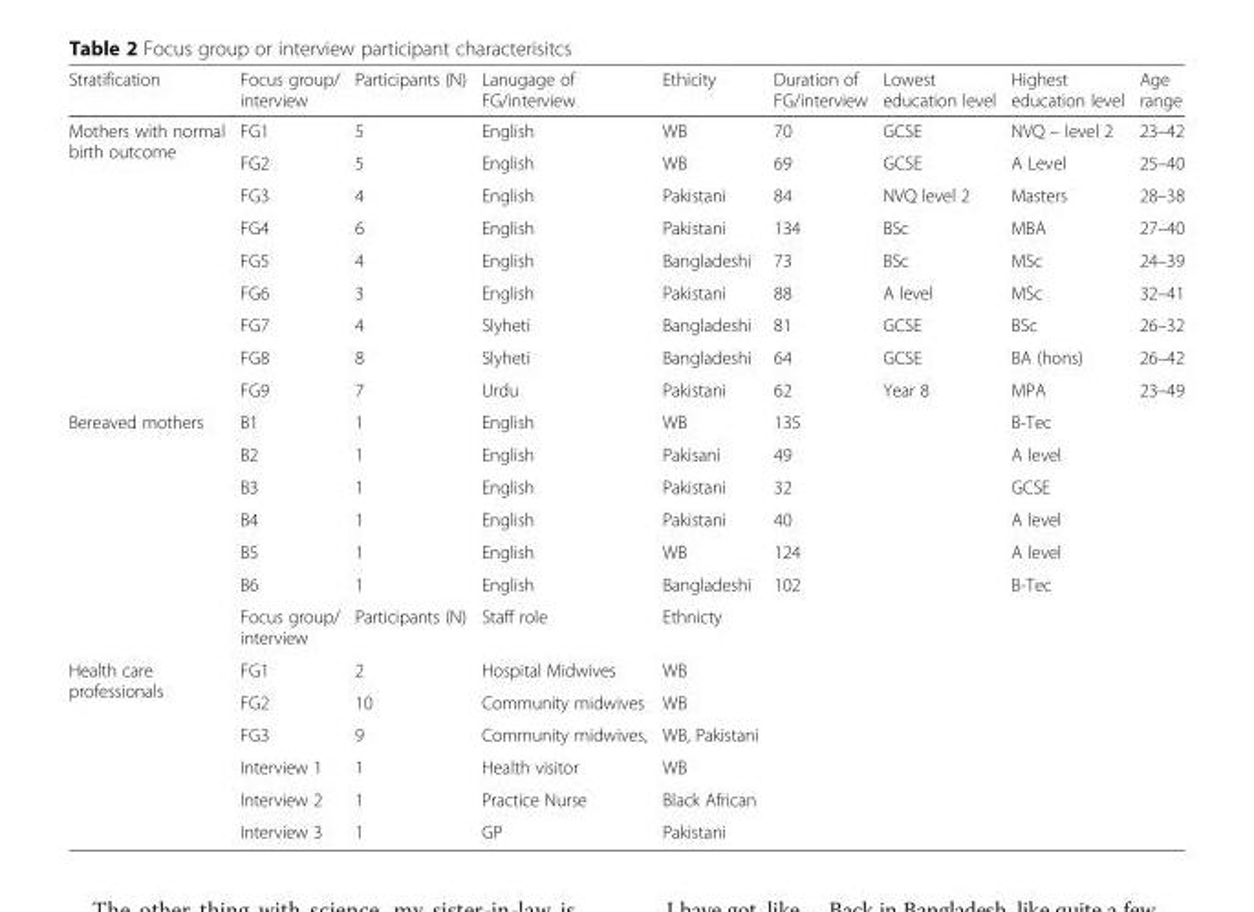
<table><thead><tr><td>Stratification</td><td>Focus group/ interview</td><td>Participants (N)</td><td>Lanugage of FG/interview</td><td>Ethicity</td><td>Duration of FG/interview</td><td>Lowest education level</td><td>Highest education level</td><td>Age range</td></tr></thead><tbody><tr><td rowspan="9">Mothers with normal birth outcome</td><td>FG1</td><td>5</td><td>English</td><td>WB</td><td>70</td><td>GCSE</td><td>NVQ – level 2</td><td>23–42</td></tr><tr><td>FG2</td><td>5</td><td>English</td><td>WB</td><td>69</td><td>GCSE</td><td>A Level</td><td>25–40</td></tr><tr><td>FG3</td><td>4</td><td>English</td><td>Pakistani</td><td>84</td><td>NVQ level 2</td><td>Masters</td><td>28–38</td></tr><tr><td>FG4</td><td>6</td><td>English</td><td>Pakistani</td><td>134</td><td>BSc</td><td>MBA</td><td>27–40</td></tr><tr><td>FG5</td><td>4</td><td>English</td><td>Bangladeshi</td><td>73</td><td>BSc</td><td>MSc</td><td>24–39</td></tr><tr><td>FG6</td><td>3</td><td>English</td><td>Pakistani</td><td>88</td><td>A level</td><td>MSc</td><td>32–41</td></tr><tr><td>FG7</td><td>4</td><td>Slyheti</td><td>Bangladeshi</td><td>81</td><td>GCSE</td><td>BSc</td><td>26–32</td></tr><tr><td>FG8</td><td>8</td><td>Slyheti</td><td>Bangladeshi</td><td>64</td><td>GCSE</td><td>BA (hons)</td><td>26–42</td></tr><tr><td>FG9</td><td>7</td><td>Urdu</td><td>Pakistani</td><td>62</td><td>Year 8</td><td>MPA</td><td>23–49</td></tr><tr><td rowspan="7">Bereaved mothers</td><td>B1</td><td>1</td><td>English</td><td>WB</td><td>135</td><td rowspan="6"></td><td>B-Tec</td><td rowspan="6"></td></tr><tr><td>B2</td><td>1</td><td>English</td><td>Pakisani</td><td>49</td><td>A level</td></tr><tr><td>B3</td><td>1</td><td>English</td><td>Pakistani</td><td>32</td><td>GCSE</td></tr><tr><td>B4</td><td>1</td><td>English</td><td>Pakistani</td><td>40</td><td>A level</td></tr><tr><td>B5</td><td>1</td><td>English</td><td>WB</td><td>124</td><td>A level</td></tr><tr><td>B6</td><td>1</td><td>English</td><td>Bangladeshi</td><td>102</td><td>B-Tec</td></tr><tr><td>Focus group/ interview</td><td>Participants (N)</td><td>Staff role</td><td>Ethnicty</td><td rowspan="7" colspan="4"></td></tr><tr><td rowspan="6">Health care professionals</td><td>FG1</td><td>2</td><td>Hospital Midwives</td><td>WB</td></tr><tr><td>FG2</td><td>10</td><td>Community midwives</td><td>WB</td></tr><tr><td>FG3</td><td>9</td><td>Community midwives,</td><td>WB, Pakistani</td></tr><tr><td>Interview 1</td><td>1</td><td>Health visitor</td><td>WB</td></tr><tr><td>Interview 2</td><td>1</td><td>Practice Nurse</td><td>Black African</td></tr><tr><td>Interview 3</td><td>1</td><td>GP</td><td>Pakistani</td></tr></tbody></table>